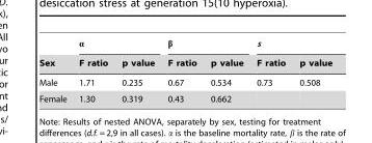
<table><thead><tr><td rowspan="2">Sex</td><td colspan="2">α</td><td colspan="2">β</td><td colspan="2">s</td></tr><tr><td>F ratio</td><td>p value</td><td>F ratio</td><td>p value</td><td>F ratio</td><td>p value</td></tr></thead><tbody><tr><td>Male</td><td>1.71</td><td>0.235</td><td>0.67</td><td>0.534</td><td>0.73</td><td>0.508</td></tr><tr><td>Female</td><td>1.30</td><td>0.319</td><td>0.43</td><td>0.662</td><td></td><td></td></tr></tbody></table>